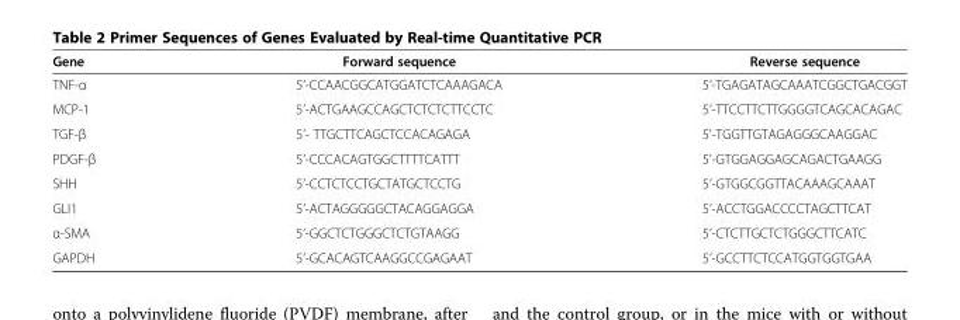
<table><thead><tr><td>Gene</td><td>Forward sequence</td><td>Reverse sequence</td></tr></thead><tbody><tr><td>TNF-α</td><td>5’-CCAACGGCATGGATCTCAAAGACA</td><td>5’-TGAGATAGCAAATCGGCTGACGGT</td></tr><tr><td>MCP-1</td><td>5’-ACTGAAGCCAGCTCTCTCTTCCTC</td><td>5’-TTCCTTCTTGGGGTCAGCACAGAC</td></tr><tr><td>TGF-β</td><td>5’- TTGCTTCAGCTCCACAGAGA</td><td>5&#x27;-TGGTTGTAGAGGGCAAGGAC</td></tr><tr><td>PDGF-β</td><td>5’-CCCACAGTGGCTTTTCATTT</td><td>5&#x27;-GTGGAGGAGCAGACTGAAGG</td></tr><tr><td>SHH</td><td>5’-CCTCTCCTGCTATGCTCCTG</td><td>5’-GTGGCGGTTACAAAGCAAAT</td></tr><tr><td>GLI1</td><td>5’-ACTAGGGGGCTACAGGAGGA</td><td>5’-ACCTGGACCCCTAGCTTCAT</td></tr><tr><td>α-SMA</td><td>5’-GGCTCTGGGCTCTGTAAGG</td><td>5’-CTCTTGCTCTGGGCTTCATC</td></tr><tr><td>GAPDH</td><td>5’-GCACAGTCAAGGCCGAGAAT</td><td>5’-GCCTTCTCCATGGTGGTGAA</td></tr></tbody></table>